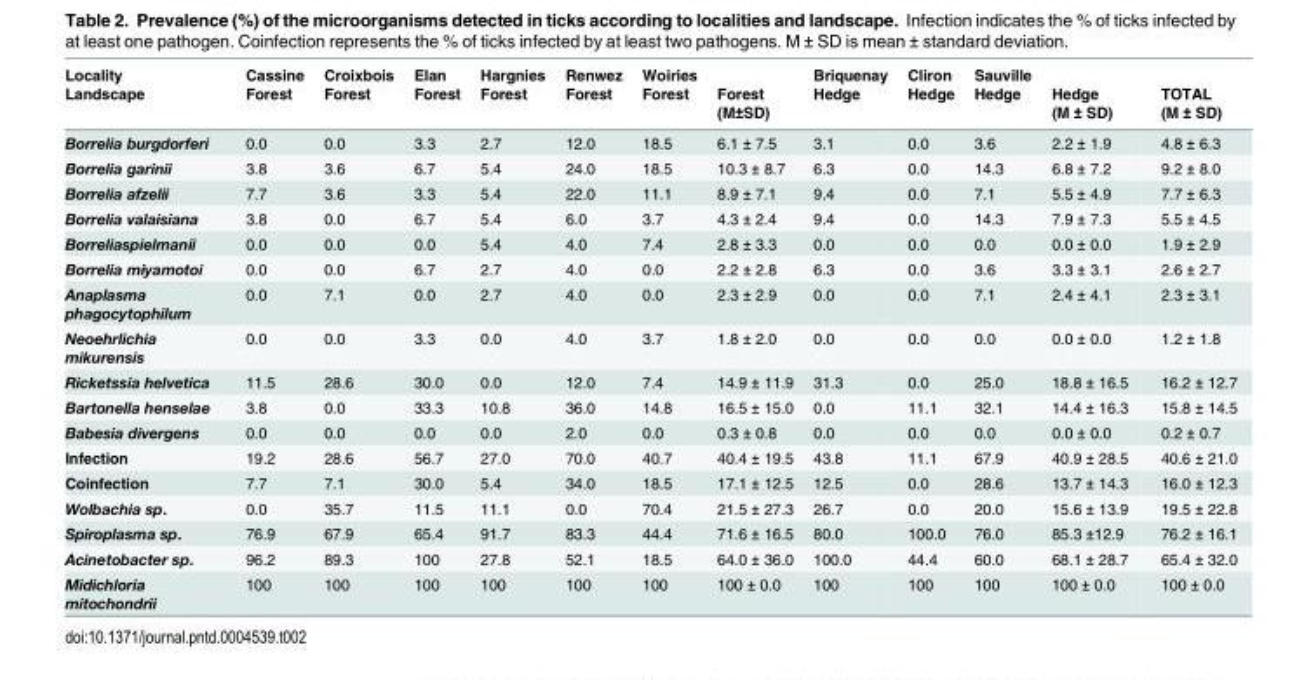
<table><thead><tr><td rowspan="2">Locality Landscape</td><td rowspan="2">Cassine Forest</td><td rowspan="2">Croixbois Forest</td><td rowspan="2">Elan Forest</td><td rowspan="2">Hargnies Forest</td><td rowspan="2">Renwez Forest</td><td rowspan="2">Woiries Forest</td><td rowspan="2">Forest (M±SD)</td><td rowspan="2">Briquenay Hedge</td><td rowspan="2">Cliron Hedge</td><td rowspan="2">Sauville Hedge</td><td rowspan="2">Hedge (M ± SD)</td><td rowspan="2">TOTAL (M ± SD)</td></tr><tr></tr></thead><tbody><tr><td>Borrelia burgdorferi</td><td>0.0</td><td>0.0</td><td>3.3</td><td>2.7</td><td>12.0</td><td>18.5</td><td>6.1 ± 7.5</td><td>3.1</td><td>0.0</td><td>3.6</td><td>2.2 ± 1.9</td><td>4.8 ± 6.3</td></tr><tr><td>Borrelia garinii</td><td>3.8</td><td>3.6</td><td>6.7</td><td>5.4</td><td>24.0</td><td>18.5</td><td>10.3 ± 8.7</td><td>6.3</td><td>0.0</td><td>14.3</td><td>6.8 ± 7.2</td><td>9.2 ± 8.0</td></tr><tr><td>Borrelia afzelii</td><td>7.7</td><td>3.6</td><td>3.3</td><td>5.4</td><td>22.0</td><td>11.1</td><td>8.9 ± 7.1</td><td>9.4</td><td>0.0</td><td>7.1</td><td>5.5 ± 4.9</td><td>7.7 ± 6.3</td></tr><tr><td>Borrelia valaisiana</td><td>3.8</td><td>0.0</td><td>6.7</td><td>5.4</td><td>6.0</td><td>3.7</td><td>4.3 ± 2.4</td><td>9.4</td><td>0.0</td><td>14.3</td><td>7.9 ± 7.3</td><td>5.5 ± 4.5</td></tr><tr><td>Borreliaspielmanii</td><td>0.0</td><td>0.0</td><td>0.0</td><td>5.4</td><td>4.0</td><td>7.4</td><td>2.8 ± 3.3</td><td>0.0</td><td>0.0</td><td>0.0</td><td>0.0 ± 0.0</td><td>1.9 ± 2.9</td></tr><tr><td>Borrelia miyamotoi</td><td>0.0</td><td>0.0</td><td>6.7</td><td>2.7</td><td>4.0</td><td>0.0</td><td>2.2 ± 2.8</td><td>6.3</td><td>0.0</td><td>3.6</td><td>3.3 ± 3.1</td><td>2.6 ± 2.7</td></tr><tr><td>Anaplasma phagocytophilum</td><td>0.0</td><td>7.1</td><td>0.0</td><td>2.7</td><td>4.0</td><td>0.0</td><td>2.3 ± 2.9</td><td>0.0</td><td>0.0</td><td>7.1</td><td>2.4 ± 4.1</td><td>2.3 ± 3.1</td></tr><tr><td>Neoehrlichia mikurensis</td><td>0.0</td><td>0.0</td><td>3.3</td><td>0.0</td><td>4.0</td><td>3.7</td><td>1.8 ± 2.0</td><td>0.0</td><td>0.0</td><td>0.0</td><td>0.0 ± 0.0</td><td>1.2 ± 1.8</td></tr><tr><td>Ricketssia helvetica</td><td>11.5</td><td>28.6</td><td>30.0</td><td>0.0</td><td>12.0</td><td>7.4</td><td>14.9 ± 11.9</td><td>31.3</td><td>0.0</td><td>25.0</td><td>18.8 ± 16.5</td><td>16.2 ± 12.7</td></tr><tr><td>Bartonella henselae</td><td>3.8</td><td>0.0</td><td>33.3</td><td>10.8</td><td>36.0</td><td>14.8</td><td>16.5 ± 15.0</td><td>0.0</td><td>11.1</td><td>32.1</td><td>14.4 ± 16.3</td><td>15.8 ± 14.5</td></tr><tr><td>Babesia divergens</td><td>0.0</td><td>0.0</td><td>0.0</td><td>0.0</td><td>2.0</td><td>0.0</td><td>0.3 ± 0.8</td><td>0.0</td><td>0.0</td><td>0.0</td><td>0.0 ± 0.0</td><td>0.2 ± 0.7</td></tr><tr><td>Infection</td><td>19.2</td><td>28.6</td><td>56.7</td><td>27.0</td><td>70.0</td><td>40.7</td><td>40.4 ± 19.5</td><td>43.8</td><td>11.1</td><td>67.9</td><td>40.9 ± 28.5</td><td>40.6 ± 21.0</td></tr><tr><td>Coinfection</td><td>7.7</td><td>7.1</td><td>30.0</td><td>5.4</td><td>34.0</td><td>18.5</td><td>17.1 ± 12.5</td><td>12.5</td><td>0.0</td><td>28.6</td><td>13.7 ± 14.3</td><td>16.0 ± 12.3</td></tr><tr><td>Wolbachia sp.</td><td>0.0</td><td>35.7</td><td>11.5</td><td>11.1</td><td>0.0</td><td>70.4</td><td>21.5 ± 27.3</td><td>26.7</td><td>0.0</td><td>20.0</td><td>15.6 ± 13.9</td><td>19.5 ± 22.8</td></tr><tr><td>Spiroplasma sp.</td><td>76.9</td><td>67.9</td><td>65.4</td><td>91.7</td><td>83.3</td><td>44.4</td><td>71.6 ± 16.5</td><td>80.0</td><td>100.0</td><td>76.0</td><td>85.3 ±12.9</td><td>76.2 ± 16.1</td></tr><tr><td>Acinetobacter sp.</td><td>96.2</td><td>89.3</td><td>100</td><td>27.8</td><td>52.1</td><td>18.5</td><td>64.0 ± 36.0</td><td>100.0</td><td>44.4</td><td>60.0</td><td>68.1 ± 28.7</td><td>65.4 ± 32.0</td></tr><tr><td>Midichloria mitochondrii</td><td>100</td><td>100</td><td>100</td><td>100</td><td>100</td><td>100</td><td>100 ± 0.0</td><td>100</td><td>100</td><td>100</td><td>100 ± 0.0</td><td>100 ± 0.0</td></tr></tbody></table>